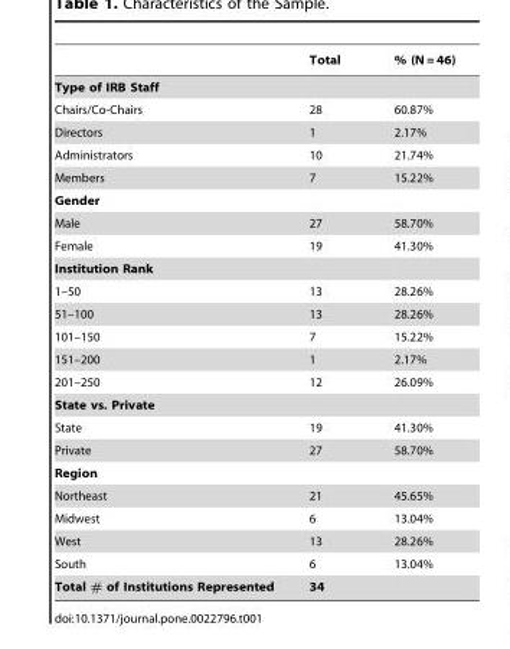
<table><thead><tr><td></td><td>Total</td><td>% (N = 46)</td></tr></thead><tbody><tr><td colspan="3">Type of IRB Staff</td></tr><tr><td>Chairs/Co-Chairs</td><td>28</td><td>60.87%</td></tr><tr><td>Directors</td><td>1</td><td>2.17%</td></tr><tr><td>Administrators</td><td>10</td><td>21.74%</td></tr><tr><td>Members</td><td>7</td><td>15.22%</td></tr><tr><td colspan="3">Gender</td></tr><tr><td>Male</td><td>27</td><td>58.70%</td></tr><tr><td>Female</td><td>19</td><td>41.30%</td></tr><tr><td colspan="3">Institution Rank</td></tr><tr><td>1–50</td><td>13</td><td>28.26%</td></tr><tr><td>51–100</td><td>13</td><td>28.26%</td></tr><tr><td>101–150</td><td>7</td><td>15.22%</td></tr><tr><td>151–200</td><td>1</td><td>2.17%</td></tr><tr><td>201–250</td><td>12</td><td>26.09%</td></tr><tr><td colspan="3">State vs. Private</td></tr><tr><td>State</td><td>19</td><td>41.30%</td></tr><tr><td>Private</td><td>27</td><td>58.70%</td></tr><tr><td colspan="3">Region</td></tr><tr><td>Northeast</td><td>21</td><td>45.65%</td></tr><tr><td>Midwest</td><td>6</td><td>13.04%</td></tr><tr><td>West</td><td>13</td><td>28.26%</td></tr><tr><td>South</td><td>6</td><td>13.04%</td></tr><tr><td>Total # of Institutions Represented</td><td>34</td><td></td></tr></tbody></table>